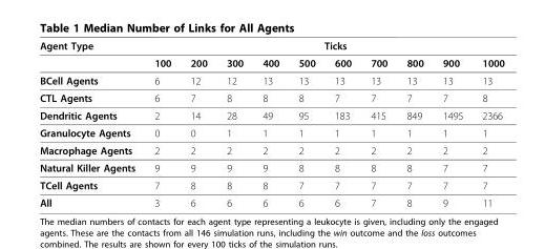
<table><thead><tr><td rowspan="2">Agent Type</td><td colspan="10">Ticks</td></tr><tr><td>100</td><td>200</td><td>300</td><td>400</td><td>500</td><td>600</td><td>700</td><td>800</td><td>900</td><td>1000</td></tr></thead><tbody><tr><td>BCell Agents</td><td>6</td><td>12</td><td>12</td><td>13</td><td>13</td><td>13</td><td>13</td><td>13</td><td>13</td><td>13</td></tr><tr><td>CTL Agents</td><td>6</td><td>7</td><td>8</td><td>8</td><td>8</td><td>7</td><td>7</td><td>7</td><td>7</td><td>8</td></tr><tr><td>Dendritic Agents</td><td>2</td><td>14</td><td>28</td><td>49</td><td>95</td><td>183</td><td>415</td><td>849</td><td>1495</td><td>2366</td></tr><tr><td>Granulocyte Agents</td><td>0</td><td>0</td><td>1</td><td>1</td><td>1</td><td>1</td><td>1</td><td>1</td><td>1</td><td>1</td></tr><tr><td>Macrophage Agents</td><td>2</td><td>2</td><td>2</td><td>2</td><td>2</td><td>2</td><td>2</td><td>2</td><td>2</td><td>2</td></tr><tr><td>Natural Killer Agents</td><td>9</td><td>9</td><td>9</td><td>9</td><td>8</td><td>8</td><td>8</td><td>8</td><td>7</td><td>7</td></tr><tr><td>TCell Agents</td><td>7</td><td>8</td><td>8</td><td>8</td><td>7</td><td>7</td><td>7</td><td>7</td><td>7</td><td>7</td></tr><tr><td>All</td><td>3</td><td>6</td><td>6</td><td>6</td><td>6</td><td>6</td><td>7</td><td>8</td><td>9</td><td>11</td></tr></tbody></table>